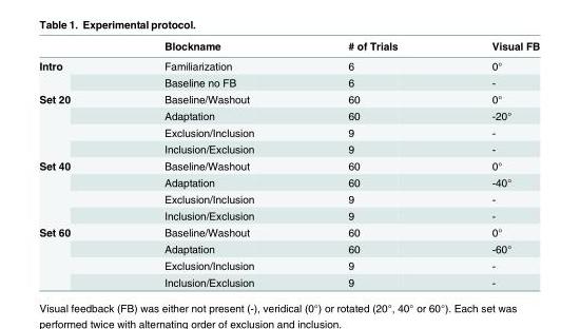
<table><thead><tr><td></td><td>Blockname</td><td># of Trials</td><td>Visual FB</td></tr></thead><tbody><tr><td rowspan="2">Intro</td><td>Familiarization</td><td>6</td><td>0°</td></tr><tr><td>Baseline no FB</td><td>6</td><td>-</td></tr><tr><td rowspan="4">Set 20</td><td>Baseline/Washout</td><td>60</td><td>0°</td></tr><tr><td>Adaptation</td><td>60</td><td>-20°</td></tr><tr><td>Exclusion/Inclusion</td><td>9</td><td>-</td></tr><tr><td>Inclusion/Exclusion</td><td>9</td><td>-</td></tr><tr><td rowspan="4">Set 40</td><td>Baseline/Washout</td><td>60</td><td>0°</td></tr><tr><td>Adaptation</td><td>60</td><td>-40°</td></tr><tr><td>Exclusion/Inclusion</td><td>9</td><td>-</td></tr><tr><td>Inclusion/Exclusion</td><td>9</td><td>-</td></tr><tr><td rowspan="4">Set 60</td><td>Baseline/Washout</td><td>60</td><td>0°</td></tr><tr><td>Adaptation</td><td>60</td><td>-60°</td></tr><tr><td>Exclusion/Inclusion</td><td>9</td><td>-</td></tr><tr><td>Inclusion/Exclusion</td><td>9</td><td>-</td></tr></tbody></table>